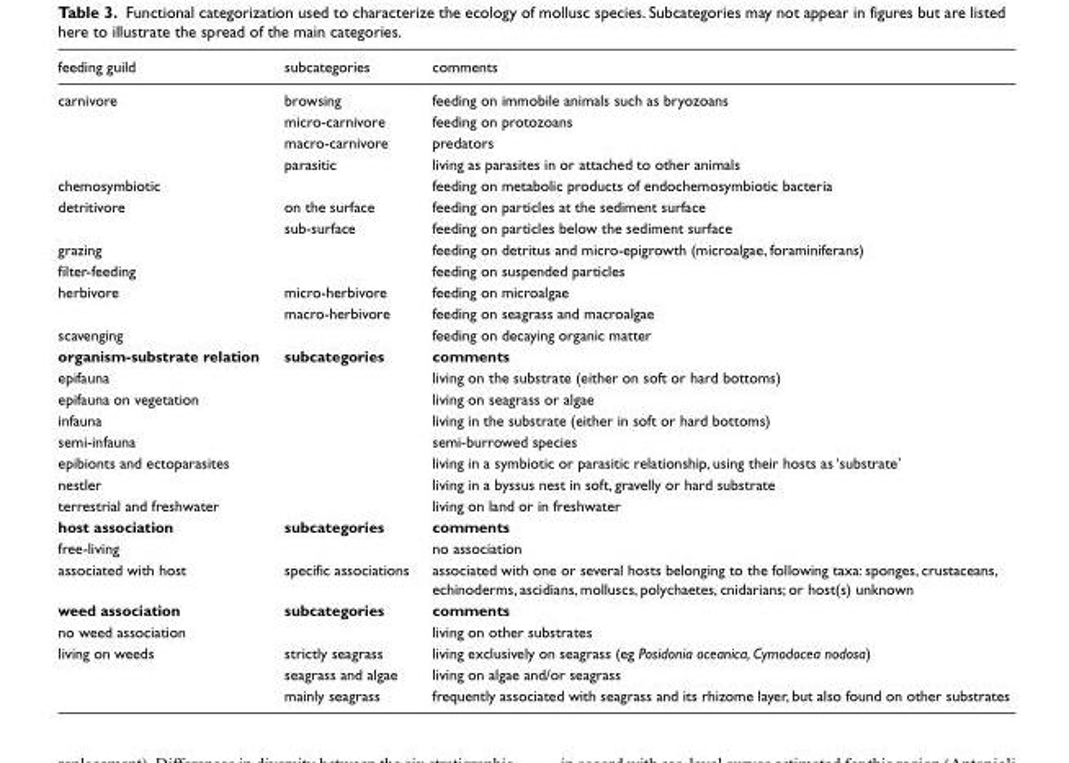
<table><thead><tr><td>feeding guild</td><td>subcategories</td><td>comments</td></tr></thead><tbody><tr><td rowspan="4">carnivore</td><td>browsing</td><td>feeding on immobile animals such as bryozoans</td></tr><tr><td>micro-carnivore</td><td>feeding on protozoans</td></tr><tr><td>macro-carnivore</td><td>predators</td></tr><tr><td>parasitic</td><td>living as parasites in or attached to other animals</td></tr><tr><td>chemosymbiotic</td><td></td><td>feeding on metabolic products of endochemosymbiotic bacteria</td></tr><tr><td rowspan="2">detritivore</td><td>on the surface</td><td>feeding on particles at the sediment surface</td></tr><tr><td>sub-surface</td><td>feeding on particles below the sediment surface</td></tr><tr><td>grazing</td><td></td><td>feeding on detritus and micro-epigrowth (microalgae, foraminiferans)</td></tr><tr><td>filter-feeding</td><td></td><td>feeding on suspended particles</td></tr><tr><td rowspan="2">herbivore</td><td>micro-herbivore</td><td>feeding on microalgae</td></tr><tr><td>macro-herbivore</td><td>feeding on seagrass and macroalgae</td></tr><tr><td>scavenging</td><td></td><td>feeding on decaying organic matter</td></tr><tr><td>organism-substrate relation</td><td>subcategories</td><td>comments</td></tr><tr><td>epifauna</td><td></td><td>living on the substrate (either on soft or hard bottoms)</td></tr><tr><td>epifauna on vegetation</td><td></td><td>living on seagrass or algae</td></tr><tr><td>infauna</td><td></td><td>living in the substrate (either in soft or hard bottoms)</td></tr><tr><td>semi-infauna</td><td></td><td>semi-burrowed species</td></tr><tr><td>epibionts and ectoparasites</td><td></td><td>living in a symbiotic or parasitic relationship, using their hosts as ‘substrate’</td></tr><tr><td>nestler</td><td></td><td>living in a byssus nest in soft, gravelly or hard substrate</td></tr><tr><td>terrestrial and freshwater</td><td></td><td>living on land or in freshwater</td></tr><tr><td>host association</td><td>subcategories</td><td>comments</td></tr><tr><td>free-living</td><td></td><td>no association</td></tr><tr><td>associated with host</td><td>specific associations</td><td>associated with one or several hosts belonging to the following taxa: sponges, crustaceans, echinoderms, ascidians, molluscs, polychaetes, cnidarians; or host(s) unknown</td></tr><tr><td>weed association</td><td>subcategories</td><td>comments</td></tr><tr><td>no weed association</td><td></td><td>living on other substrates</td></tr><tr><td rowspan="3">living on weeds</td><td>strictly seagrass</td><td>living exclusively on seagrass (eg Posidonia oceanica, Cymodocea nodosa)</td></tr><tr><td>seagrass and algae</td><td>living on algae and/or seagrass</td></tr><tr><td>mainly seagrass</td><td>frequently associated with seagrass and its rhizome layer, but also found on other substrates</td></tr></tbody></table>